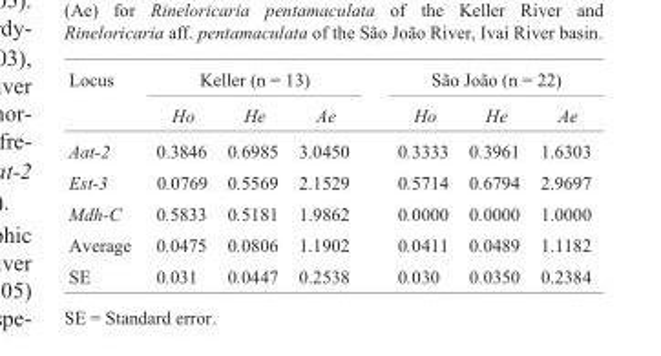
<table><thead><tr><td rowspan="2">Locus</td><td colspan="3">Keller (n = 13)</td><td colspan="3">São João (n = 22)</td></tr><tr><td>Ho</td><td>He</td><td>Ae</td><td>Ho</td><td>He</td><td>Ae</td></tr></thead><tbody><tr><td>Aat-2</td><td>0.3846</td><td>0.6985</td><td>3.0450</td><td>0.3333</td><td>0.3961</td><td>1.6303</td></tr><tr><td>Est-3</td><td>0.0769</td><td>0.5569</td><td>2.1529</td><td>0.5714</td><td>0.6794</td><td>2.9697</td></tr><tr><td>Mdh-C</td><td>0.5833</td><td>0.5181</td><td>1.9862</td><td>0.0000</td><td>0.0000</td><td>1.0000</td></tr><tr><td>Average</td><td>0.0475</td><td>0.0806</td><td>1.1902</td><td>0.0411</td><td>0.0489</td><td>1.1182</td></tr><tr><td>SE</td><td>0.031</td><td>0.0447</td><td>0.2538</td><td>0.030</td><td>0.0350</td><td>0.2384</td></tr></tbody></table>